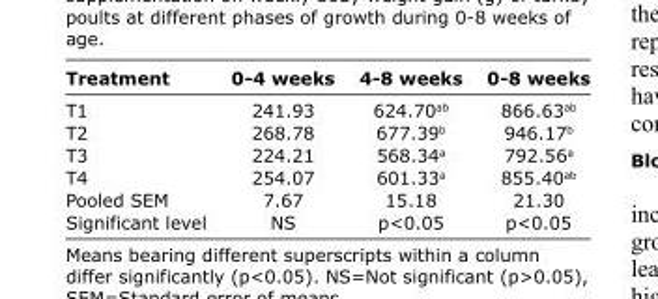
<table><thead><tr><td>Treatment</td><td>0-4 weeks</td><td>4-8 weeks</td><td>0-8 weeks</td></tr></thead><tbody><tr><td>T1</td><td>241.93</td><td>624.70<sup>ab</sup></td><td>866.63<sup>ab</sup></td></tr><tr><td>T2</td><td>268.78</td><td>677.39<sup>b</sup></td><td>946.17<sup>b</sup></td></tr><tr><td>T3</td><td>224.21</td><td>568.34<sup>a</sup></td><td>792.56<sup>a</sup></td></tr><tr><td>T4</td><td>254.07</td><td>601.33<sup>a</sup></td><td>855.40<sup>ab</sup></td></tr><tr><td>Pooled SEM</td><td>7.67</td><td>15.18</td><td>21.30</td></tr><tr><td>Significant level</td><td>NS</td><td>p&lt;0.05</td><td>p&lt;0.05</td></tr></tbody></table>